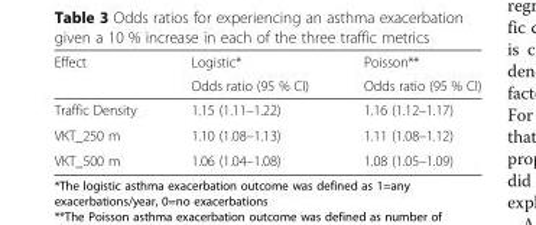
<table><thead><tr><td rowspan="2">Effect</td><td rowspan="2">Logistic* Odds ratio (95 % CI)</td><td rowspan="2">Poisson** Odds ratio (95 % CI)</td></tr><tr></tr></thead><tbody><tr><td>Traffic Density</td><td>1.15 (1.11–1.22)</td><td>1.16 (1.12–1.17)</td></tr><tr><td>VKT_250 m</td><td>1.10 (1.08–1.13)</td><td>1.11 (1.08–1.12)</td></tr><tr><td>VKT_500 m</td><td>1.06 (1.04–1.08)</td><td>1.08 (1.05–1.09)</td></tr></tbody></table>